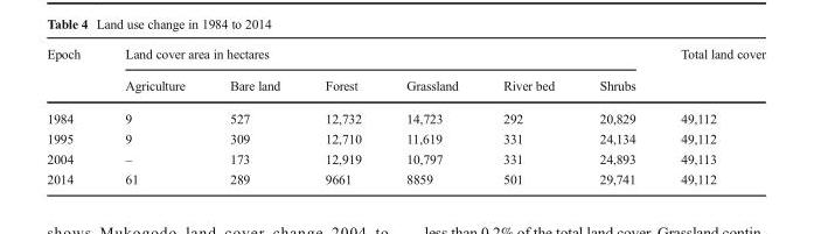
<table><thead><tr><td rowspan="2">Epoch</td><td colspan="6">Land cover area in hectares</td><td rowspan="2">Total land cover</td></tr><tr><td>Agriculture</td><td>Bare land</td><td>Forest</td><td>Grassland</td><td>River bed</td><td>Shrubs</td></tr></thead><tbody><tr><td>1984</td><td>9</td><td>527</td><td>12,732</td><td>14,723</td><td>292</td><td>20,829</td><td>49,112</td></tr><tr><td>1995</td><td>9</td><td>309</td><td>12,710</td><td>11,619</td><td>331</td><td>24,134</td><td>49,112</td></tr><tr><td>2004</td><td>–</td><td>173</td><td>12,919</td><td>10,797</td><td>331</td><td>24,893</td><td>49,113</td></tr><tr><td>2014</td><td>61</td><td>289</td><td>9661</td><td>8859</td><td>501</td><td>29,741</td><td>49,112</td></tr></tbody></table>